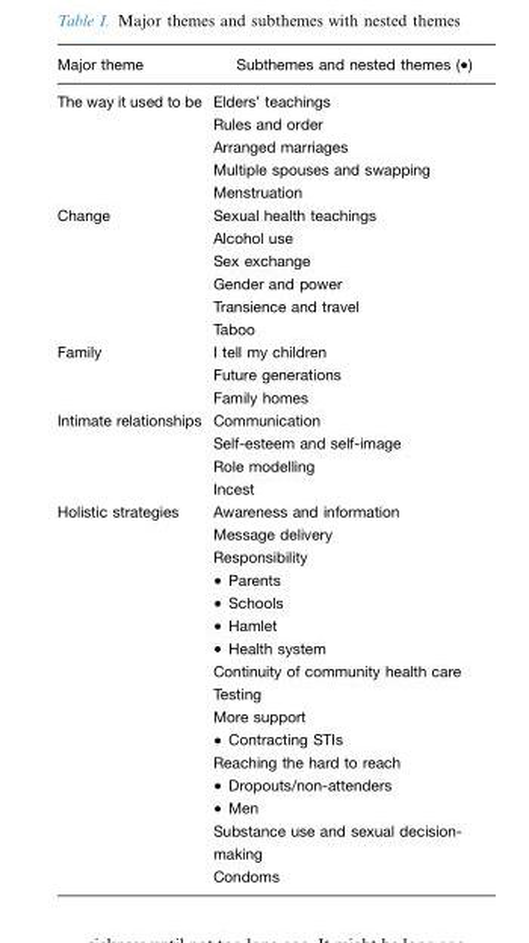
<table><thead><tr><td>Major theme</td><td>Subthemes and nested themes (•)</td></tr></thead><tbody><tr><td rowspan="5">The way it used to be</td><td>Elders’ teachings</td></tr><tr><td>Rules and order</td></tr><tr><td>Arranged marriages</td></tr><tr><td>Multiple spouses and swapping</td></tr><tr><td>Menstruation</td></tr><tr><td rowspan="6">Change</td><td>Sexual health teachings</td></tr><tr><td>Alcohol use</td></tr><tr><td>Sex exchange</td></tr><tr><td>Gender and power</td></tr><tr><td>Transience and travel</td></tr><tr><td>Taboo</td></tr><tr><td rowspan="3">Family</td><td>I tell my children</td></tr><tr><td>Future generations</td></tr><tr><td>Family homes</td></tr><tr><td rowspan="4">Intimate relationships</td><td>Communication</td></tr><tr><td>Self-esteem and self-image</td></tr><tr><td>Role modelling</td></tr><tr><td>Incest</td></tr><tr><td rowspan="16">Holistic strategies</td><td>Awareness and information</td></tr><tr><td>Message delivery</td></tr><tr><td>Responsibility</td></tr><tr><td>• Parents</td></tr><tr><td>• Schools</td></tr><tr><td>• Hamlet</td></tr><tr><td>• Health system</td></tr><tr><td>Continuity of community health care</td></tr><tr><td>Testing</td></tr><tr><td>More support</td></tr><tr><td>• Contracting STIs</td></tr><tr><td>Reaching the hard to reach</td></tr><tr><td>• Dropouts/non-attenders</td></tr><tr><td>• Men</td></tr><tr><td>Substance use and sexual decision- making</td></tr><tr><td>Condoms</td></tr></tbody></table>